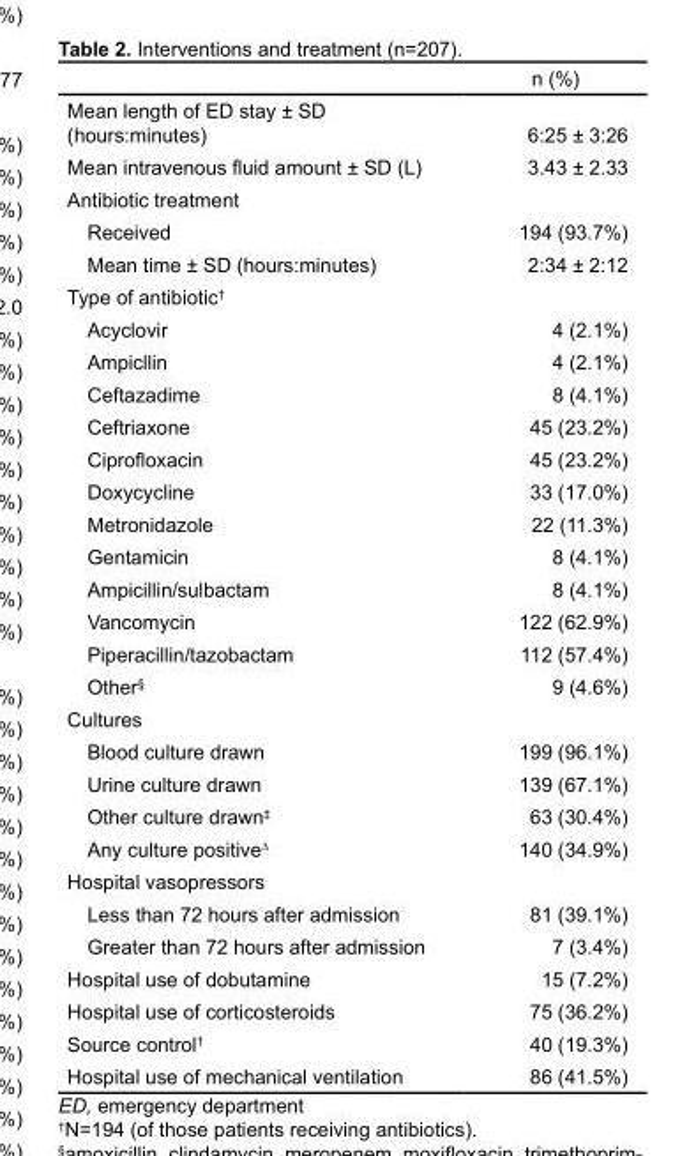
<table><thead><tr><td></td><td>n (%)</td></tr></thead><tbody><tr><td>Mean length of ED stay ± SD (hours:minutes)</td><td>6:25 ± 3:26</td></tr><tr><td>Mean intravenous fluid amount ± SD (L)</td><td>3.43 ± 2.33</td></tr><tr><td colspan="2">Antibiotic treatment</td></tr><tr><td>Received</td><td>194 (93.7%)</td></tr><tr><td>Mean time ± SD (hours:minutes)</td><td>2:34 ± 2:12</td></tr><tr><td colspan="2">Type of antibiotic†</td></tr><tr><td>Acyclovir</td><td>4 (2.1%)</td></tr><tr><td>Ampicllin</td><td>4 (2.1%)</td></tr><tr><td>Ceftazadime</td><td>8 (4.1%)</td></tr><tr><td>Ceftriaxone</td><td>45 (23.2%)</td></tr><tr><td>Ciprofloxacin</td><td>45 (23.2%)</td></tr><tr><td>Doxycycline</td><td>33 (17.0%)</td></tr><tr><td>Metronidazole</td><td>22 (11.3%)</td></tr><tr><td>Gentamicin</td><td>8 (4.1%)</td></tr><tr><td>Ampicillin/sulbactam</td><td>8 (4.1%)</td></tr><tr><td>Vancomycin</td><td>122 (62.9%)</td></tr><tr><td>Piperacillin/tazobactam</td><td>112 (57.4%)</td></tr><tr><td>Other§</td><td>9 (4.6%)</td></tr><tr><td colspan="2">Cultures</td></tr><tr><td>Blood culture drawn</td><td>199 (96.1%)</td></tr><tr><td>Urine culture drawn</td><td>139 (67.1%)</td></tr><tr><td>Other culture drawn‡</td><td>63 (30.4%)</td></tr><tr><td>Any culture positive∆</td><td>140 (34.9%)</td></tr><tr><td colspan="2">Hospital vasopressors</td></tr><tr><td>Less than 72 hours after admission</td><td>81 (39.1%)</td></tr><tr><td>Greater than 72 hours after admission</td><td>7 (3.4%)</td></tr><tr><td>Hospital use of dobutamine</td><td>15 (7.2%)</td></tr><tr><td>Hospital use of corticosteroids</td><td>75 (36.2%)</td></tr><tr><td>Source control†</td><td>40 (19.3%)</td></tr><tr><td>Hospital use of mechanical ventilation</td><td>86 (41.5%)</td></tr></tbody></table>